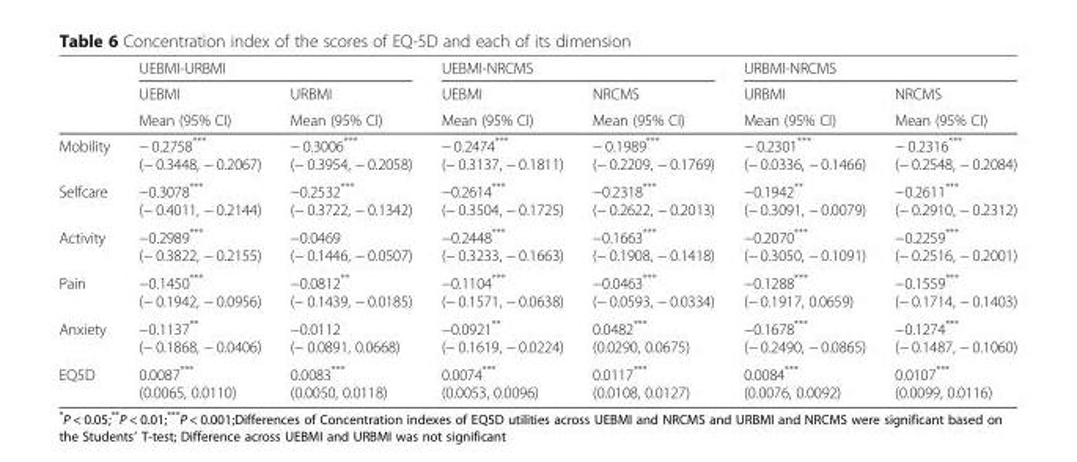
<table><thead><tr><td rowspan="3"></td><td colspan="2">UEBMI-URBMI</td><td colspan="2">UEBMI-NRCMS</td><td colspan="2">URBMI-NRCMS</td></tr><tr><td rowspan="2">UEBMI Mean (95% CI)</td><td rowspan="2">URBMI Mean (95% CI)</td><td rowspan="2">UEBMI Mean (95% CI)</td><td rowspan="2">NRCMS Mean (95% CI)</td><td rowspan="2">URBMI Mean (95% CI)</td><td rowspan="2">NRCMS Mean (95% CI)</td></tr><tr></tr></thead><tbody><tr><td>Mobility</td><td>− 0.2758*** (− 0.3448, − 0.2067)</td><td>− 0.3006*** (− 0.3954, − 0.2058)</td><td>− 0.2474*** (− 0.3137, − 0.1811)</td><td>− 0.1989*** (− 0.2209, − 0.1769)</td><td>− 0.2301*** (− 0.0336, − 0.1466)</td><td>− 0.2316*** (− 0.2548, − 0.2084)</td></tr><tr><td>Selfcare</td><td>−0.3078*** (− 0.4011, − 0.2144)</td><td>−0.2532*** (− 0.3722, − 0.1342)</td><td>−0.2614*** (− 0.3504, − 0.1725)</td><td>−0.2318*** (− 0.2622, − 0.2013)</td><td>−0.1942** (− 0.3091, − 0.0079)</td><td>−0.2611*** (− 0.2910, − 0.2312)</td></tr><tr><td>Activity</td><td>−0.2989*** (− 0.3822, − 0.2155)</td><td>−0.0469 (− 0.1446, − 0.0507)</td><td>−0.2448*** (− 0.3233, − 0.1663)</td><td>−0.1663*** (− 0.1908, − 0.1418)</td><td>−0.2070*** (− 0.3050, − 0.1091)</td><td>−0.2259*** (− 0.2516, − 0.2001)</td></tr><tr><td>Pain</td><td>−0.1450*** (− 0.1942, − 0.0956)</td><td>−0.0812** (− 0.1439, − 0.0185)</td><td>−0.1104*** (− 0.1571, − 0.0638)</td><td>−0.0463*** (− 0.0593, − 0.0334)</td><td>−0.1288*** (− 0.1917, 0.0659)</td><td>−0.1559*** (− 0.1714, − 0.1403)</td></tr><tr><td>Anxiety</td><td>−0.1137** (− 0.1868, − 0.0406)</td><td>−0.0112 (− 0.0891, 0.0668)</td><td>−0.0921** (− 0.1619, − 0.0224)</td><td>0.0482*** (0.0290, 0.0675)</td><td>−0.1678*** (− 0.2490, − 0.0865)</td><td>−0.1274*** (− 0.1487, − 0.1060)</td></tr><tr><td>EQ5D</td><td>0.0087*** (0.0065, 0.0110)</td><td>0.0083*** (0.0050, 0.0118)</td><td>0.0074*** (0.0053, 0.0096)</td><td>0.0117*** (0.0108, 0.0127)</td><td>0.0084*** (0.0076, 0.0092)</td><td>0.0107*** (0.0099, 0.0116)</td></tr></tbody></table>